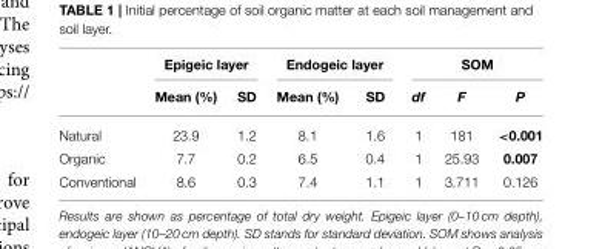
<table><thead><tr><td rowspan="2"></td><td colspan="2">Epigeic layer</td><td colspan="2">Endogeic layer</td><td colspan="3">SOM</td></tr><tr><td>Mean (%)</td><td>SD</td><td>Mean (%)</td><td>SD</td><td>df</td><td>F</td><td>P</td></tr></thead><tbody><tr><td>Natural</td><td>23.9</td><td>1.2</td><td>8.1</td><td>1.6</td><td>1</td><td>181</td><td>&lt;0.001</td></tr><tr><td>Organic</td><td>7.7</td><td>0.2</td><td>6.5</td><td>0.4</td><td>1</td><td>25.93</td><td>0.007</td></tr><tr><td>Conventional</td><td>8.6</td><td>0.3</td><td>7.4</td><td>1.1</td><td>1</td><td>3.711</td><td>0.126</td></tr></tbody></table>